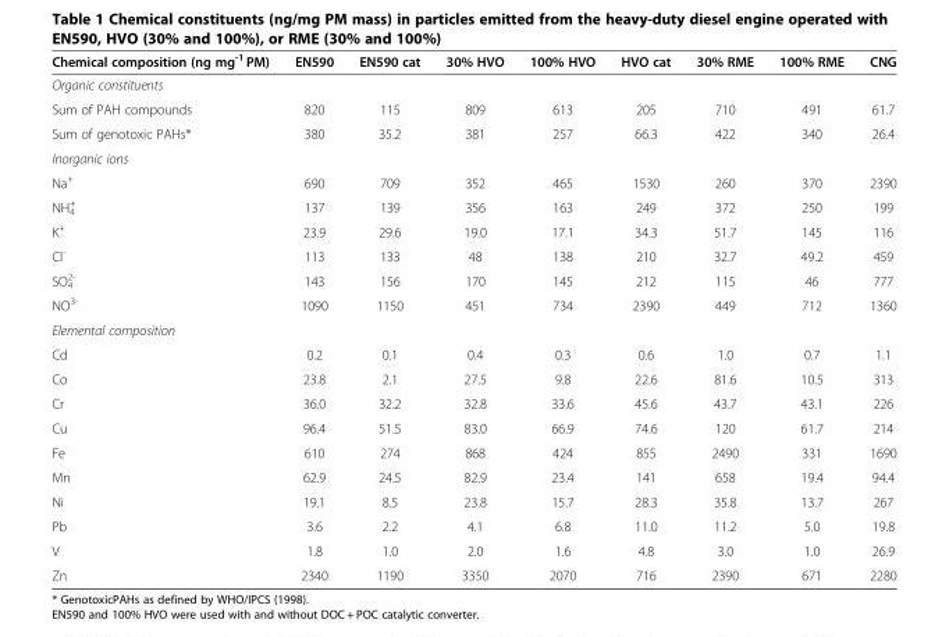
<table><thead><tr><td>Chemical composition (ng mg<sup>-1</sup> PM)</td><td>EN590</td><td>EN590 cat</td><td>30% HVO</td><td>100% HVO</td><td>HVO cat</td><td>30% RME</td><td>100% RME</td><td>CNG</td></tr></thead><tbody><tr><td colspan="9">Organic constituents</td></tr><tr><td>Sum of PAH compounds</td><td>820</td><td>115</td><td>809</td><td>613</td><td>205</td><td>710</td><td>491</td><td>61.7</td></tr><tr><td>Sum of genotoxic PAHs*</td><td>380</td><td>35.2</td><td>381</td><td>257</td><td>66.3</td><td>422</td><td>340</td><td>26.4</td></tr><tr><td colspan="9">Inorganic ions</td></tr><tr><td>Na<sup>+</sup></td><td>690</td><td>709</td><td>352</td><td>465</td><td>1530</td><td>260</td><td>370</td><td>2390</td></tr><tr><td>NH<sub>4</sub> <sup>+</sup></td><td>137</td><td>139</td><td>356</td><td>163</td><td>249</td><td>372</td><td>250</td><td>199</td></tr><tr><td>K<sup>+</sup></td><td>23.9</td><td>29.6</td><td>19.0</td><td>17.1</td><td>34.3</td><td>51.7</td><td>145</td><td>116</td></tr><tr><td>Cl<sup>-</sup></td><td>113</td><td>133</td><td>48</td><td>138</td><td>210</td><td>32.7</td><td>49.2</td><td>459</td></tr><tr><td>SO<sub>4</sub> <sup>2-</sup></td><td>143</td><td>156</td><td>170</td><td>145</td><td>212</td><td>115</td><td>46</td><td>777</td></tr><tr><td>NO<sup>3-</sup></td><td>1090</td><td>1150</td><td>451</td><td>734</td><td>2390</td><td>449</td><td>712</td><td>1360</td></tr><tr><td colspan="9">Elemental composition</td></tr><tr><td>Cd</td><td>0.2</td><td>0.1</td><td>0.4</td><td>0.3</td><td>0.6</td><td>1.0</td><td>0.7</td><td>1.1</td></tr><tr><td>Co</td><td>23.8</td><td>2.1</td><td>27.5</td><td>9.8</td><td>22.6</td><td>81.6</td><td>10.5</td><td>313</td></tr><tr><td>Cr</td><td>36.0</td><td>32.2</td><td>32.8</td><td>33.6</td><td>45.6</td><td>43.7</td><td>43.1</td><td>226</td></tr><tr><td>Cu</td><td>96.4</td><td>51.5</td><td>83.0</td><td>66.9</td><td>74.6</td><td>120</td><td>61.7</td><td>214</td></tr><tr><td>Fe</td><td>610</td><td>274</td><td>868</td><td>424</td><td>855</td><td>2490</td><td>331</td><td>1690</td></tr><tr><td>Mn</td><td>62.9</td><td>24.5</td><td>82.9</td><td>23.4</td><td>141</td><td>658</td><td>19.4</td><td>94.4</td></tr><tr><td>Ni</td><td>19.1</td><td>8.5</td><td>23.8</td><td>15.7</td><td>28.3</td><td>35.8</td><td>13.7</td><td>267</td></tr><tr><td>Pb</td><td>3.6</td><td>2.2</td><td>4.1</td><td>6.8</td><td>11.0</td><td>11.2</td><td>5.0</td><td>19.8</td></tr><tr><td>V</td><td>1.8</td><td>1.0</td><td>2.0</td><td>1.6</td><td>4.8</td><td>3.0</td><td>1.0</td><td>26.9</td></tr><tr><td>Zn</td><td>2340</td><td>1190</td><td>3350</td><td>2070</td><td>716</td><td>2390</td><td>671</td><td>2280</td></tr></tbody></table>